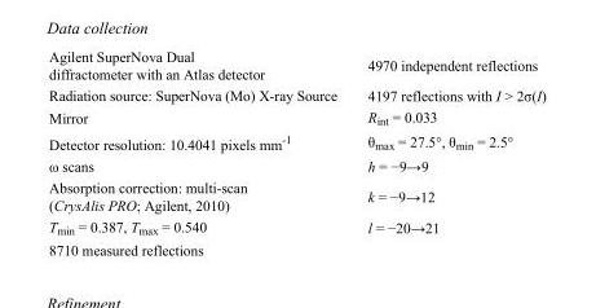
<table><tbody><tr><td>Agilent SuperNova Dual diffractometer with an Atlas detector</td><td>4970 independent reflections</td></tr><tr><td>Radiation source: SuperNova (Mo) X-ray Source</td><td>4197 reflections with I &gt; 2σ(I)</td></tr><tr><td>Mirror</td><td>R<sub>int</sub> = 0.033</td></tr><tr><td>Detector resolution: 10.4041 pixels mm<sup>-1</sup></td><td>θ<sub>max</sub> = 27.5°, θ<sub>min</sub> = 2.5°</td></tr><tr><td>ω scans</td><td>h = −9→9</td></tr><tr><td>Absorption correction: multi-scan (CrysAlis PRO; Agilent, 2010)</td><td>k = −9→12</td></tr><tr><td>T<sub>min</sub> = 0.387, T<sub>max</sub> = 0.540</td><td>l = −20→21</td></tr><tr><td>8710 measured reflections</td><td></td></tr></tbody></table>